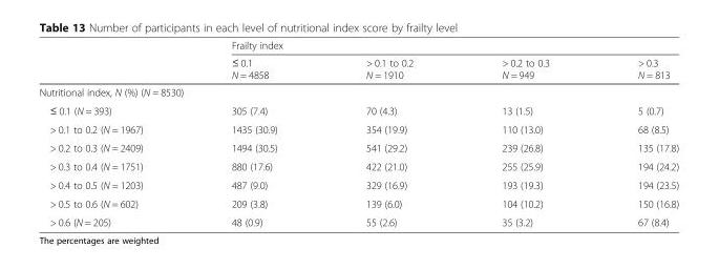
<table><thead><tr><td rowspan="2"></td><td colspan="4">Frailty index</td></tr><tr><td>≤ 0.1 N = 4858</td><td>&gt; 0.1 to 0.2 N = 1910</td><td>&gt; 0.2 to 0.3 N = 949</td><td>&gt; 0.3 N = 813</td></tr></thead><tbody><tr><td colspan="5">Nutritional index, N (%) (N = 8530)</td></tr><tr><td>≤ 0.1 (N = 393)</td><td>305 (7.4)</td><td>70 (4.3)</td><td>13 (1.5)</td><td>5 (0.7)</td></tr><tr><td>&gt; 0.1 to 0.2 (N = 1967)</td><td>1435 (30.9)</td><td>354 (19.9)</td><td>110 (13.0)</td><td>68 (8.5)</td></tr><tr><td>&gt; 0.2 to 0.3 (N = 2409)</td><td>1494 (30.5)</td><td>541 (29.2)</td><td>239 (26.8)</td><td>135 (17.8)</td></tr><tr><td>&gt; 0.3 to 0.4 (N = 1751)</td><td>880 (17.6)</td><td>422 (21.0)</td><td>255 (25.9)</td><td>194 (24.2)</td></tr><tr><td>&gt; 0.4 to 0.5 (N = 1203)</td><td>487 (9.0)</td><td>329 (16.9)</td><td>193 (19.3)</td><td>194 (23.5)</td></tr><tr><td>&gt; 0.5 to 0.6 (N = 602)</td><td>209 (3.8)</td><td>139 (6.0)</td><td>104 (10.2)</td><td>150 (16.8)</td></tr><tr><td>&gt; 0.6 (N = 205)</td><td>48 (0.9)</td><td>55 (2.6)</td><td>35 (3.2)</td><td>67 (8.4)</td></tr></tbody></table>